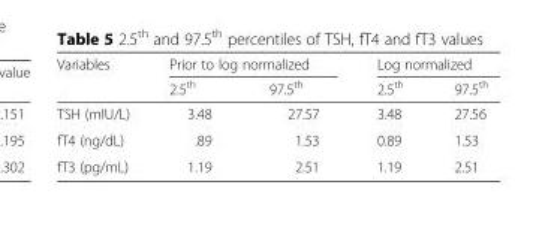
<table><thead><tr><td rowspan="2">Variables</td><td colspan="2">Prior to log normalized</td><td colspan="2">Log normalized</td></tr><tr><td>2.5<sup>th</sup></td><td>97.5<sup>th</sup></td><td>2.5<sup>th</sup></td><td>97.5<sup>th</sup></td></tr></thead><tbody><tr><td>TSH (mIU/L)</td><td>3.48</td><td>27.57</td><td>3.48</td><td>27.56</td></tr><tr><td>fT4 (ng/dL)</td><td>.89</td><td>1.53</td><td>0.89</td><td>1.53</td></tr><tr><td>fT3 (pg/mL)</td><td>1.19</td><td>2.51</td><td>1.19</td><td>2.51</td></tr></tbody></table>